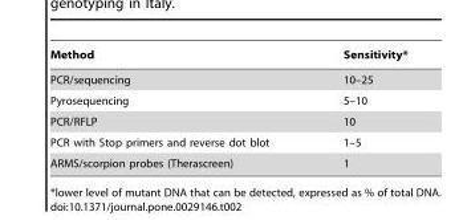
<table><thead><tr><td>Method</td><td>Sensitivity*</td></tr></thead><tbody><tr><td>PCR/sequencing</td><td>10–25</td></tr><tr><td>Pyrosequencing</td><td>5–10</td></tr><tr><td>PCR/RFLP</td><td>10</td></tr><tr><td>PCR with Stop primers and reverse dot blot</td><td>1–5</td></tr><tr><td>ARMS/scorpion probes (Therascreen)</td><td>1</td></tr></tbody></table>